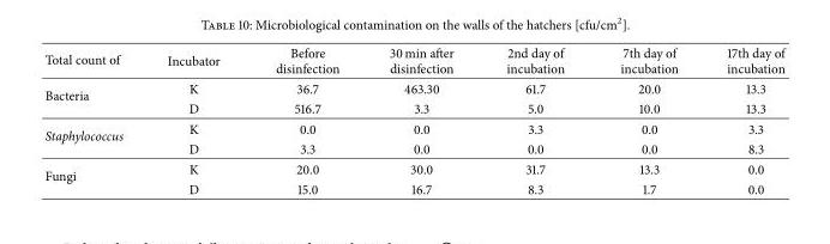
<table><thead><tr><td>Total count of</td><td>Incubator</td><td>Before disinfection</td><td>30 min after disinfection</td><td>2nd day of incubation</td><td>7th day of incubation</td><td>17th day of incubation</td></tr></thead><tbody><tr><td rowspan="2">Bacteria</td><td>K</td><td>36.7</td><td>463.30</td><td>61.7</td><td>20.0</td><td>13.3</td></tr><tr><td>D</td><td>516.7</td><td>3.3</td><td>5.0</td><td>10.0</td><td>13.3</td></tr><tr><td rowspan="2">Staphylococcus</td><td>K</td><td>0.0</td><td>0.0</td><td>3.3</td><td>0.0</td><td>3.3</td></tr><tr><td>D</td><td>3.3</td><td>0.0</td><td>0.0</td><td>0.0</td><td>8.3</td></tr><tr><td rowspan="2">Fungi</td><td>K</td><td>20.0</td><td>30.0</td><td>31.7</td><td>13.3</td><td>0.0</td></tr><tr><td>D</td><td>15.0</td><td>16.7</td><td>8.3</td><td>1.7</td><td>0.0</td></tr></tbody></table>